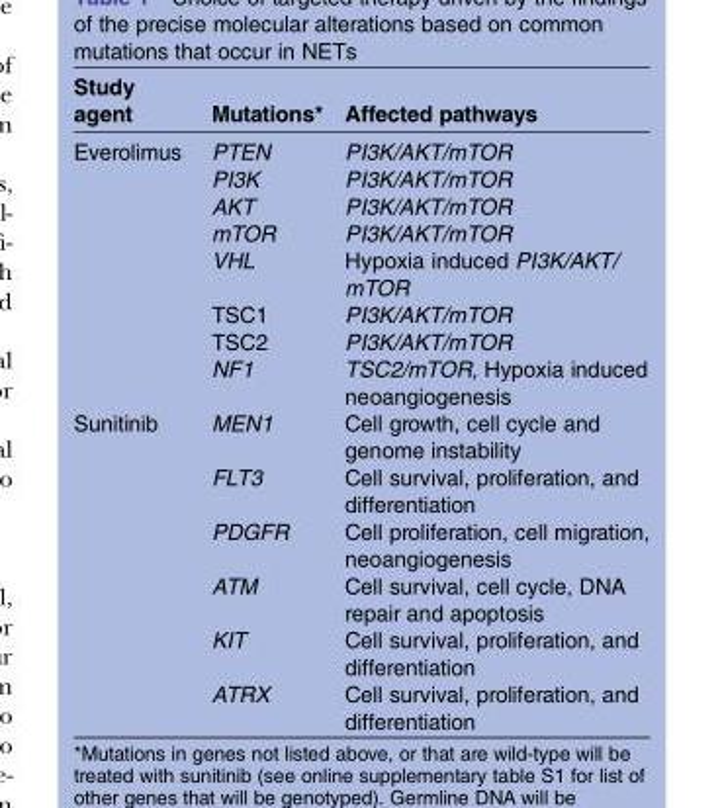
<table><thead><tr><td>Study agent</td><td>Mutations*</td><td>Affected pathways</td></tr></thead><tbody><tr><td rowspan="8">Everolimus</td><td>PTEN</td><td>PI3K/AKT/mTOR</td></tr><tr><td>PI3K</td><td>PI3K/AKT/mTOR</td></tr><tr><td>AKT</td><td>PI3K/AKT/mTOR</td></tr><tr><td>mTOR</td><td>PI3K/AKT/mTOR</td></tr><tr><td>VHL</td><td>Hypoxia induced PI3K/AKT/ mTOR</td></tr><tr><td>TSC1</td><td>PI3K/AKT/mTOR</td></tr><tr><td>TSC2</td><td>PI3K/AKT/mTOR</td></tr><tr><td>NF1</td><td>TSC2/mTOR, Hypoxia induced neoangiogenesis</td></tr><tr><td rowspan="6">Sunitinib</td><td>MEN1</td><td>Cell growth, cell cycle and genome instability</td></tr><tr><td>FLT3</td><td>Cell survival, proliferation, and differentiation</td></tr><tr><td>PDGFR</td><td>Cell proliferation, cell migration, neoangiogenesis</td></tr><tr><td>ATM</td><td>Cell survival, cell cycle, DNA repair and apoptosis</td></tr><tr><td>KIT</td><td>Cell survival, proliferation, and differentiation</td></tr><tr><td>ATRX</td><td>Cell survival, proliferation, and differentiation</td></tr></tbody></table>